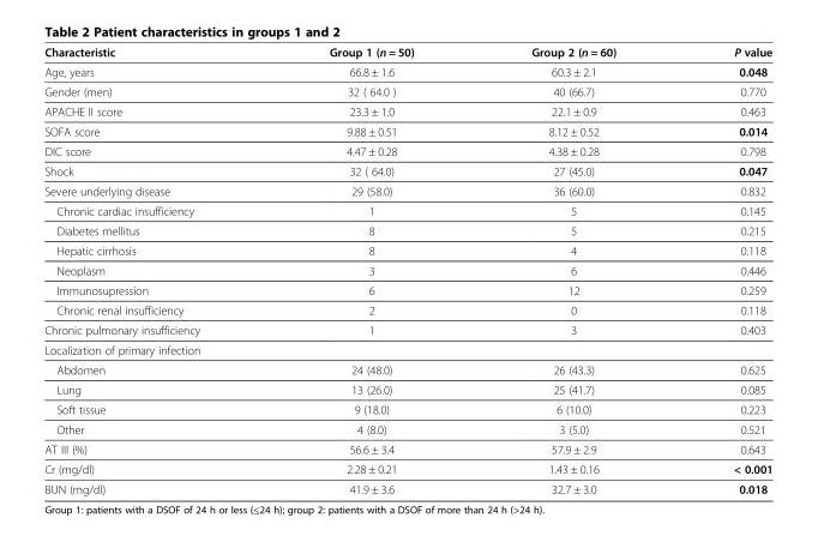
<table><thead><tr><td>Characteristic</td><td>Group 1 (n = 50)</td><td>Group 2 (n = 60)</td><td>P value</td></tr></thead><tbody><tr><td>Age, years</td><td>66.8 ± 1.6</td><td>60.3 ± 2.1</td><td>0.048</td></tr><tr><td>Gender (men)</td><td>32 ( 64.0 )</td><td>40 (66.7)</td><td>0.770</td></tr><tr><td>APACHE II score</td><td>23.3 ± 1.0</td><td>22.1 ± 0.9</td><td>0.463</td></tr><tr><td>SOFA score</td><td>9.88 ± 0.51</td><td>8.12 ± 0.52</td><td>0.014</td></tr><tr><td>DIC score</td><td>4.47 ± 0.28</td><td>4.38 ± 0.28</td><td>0.798</td></tr><tr><td>Shock</td><td>32 ( 64.0)</td><td>27 (45.0)</td><td>0.047</td></tr><tr><td>Severe underlying disease</td><td>29 (58.0)</td><td>36 (60.0)</td><td>0.832</td></tr><tr><td>Chronic cardiac insufficiency</td><td>1</td><td>5</td><td>0.145</td></tr><tr><td>Diabetes mellitus</td><td>8</td><td>5</td><td>0.215</td></tr><tr><td>Hepatic cirrhosis</td><td>8</td><td>4</td><td>0.118</td></tr><tr><td>Neoplasm</td><td>3</td><td>6</td><td>0.446</td></tr><tr><td>Immunosupression</td><td>6</td><td>12</td><td>0.259</td></tr><tr><td>Chronic renal insufficiency</td><td>2</td><td>0</td><td>0.118</td></tr><tr><td>Chronic pulmonary insufficiency</td><td>1</td><td>3</td><td>0.403</td></tr><tr><td colspan="4">Localization of primary infection</td></tr><tr><td>Abdomen</td><td>24 (48.0)</td><td>26 (43.3)</td><td>0.625</td></tr><tr><td>Lung</td><td>13 (26.0)</td><td>25 (41.7)</td><td>0.085</td></tr><tr><td>Soft tissue</td><td>9 (18.0)</td><td>6 (10.0)</td><td>0.223</td></tr><tr><td>Other</td><td>4 (8.0)</td><td>3 (5.0)</td><td>0.521</td></tr><tr><td>AT III (%)</td><td>56.6 ± 3.4</td><td>57.9 ± 2.9</td><td>0.643</td></tr><tr><td>Cr (mg/dl)</td><td>2.28 ± 0.21</td><td>1.43 ± 0.16</td><td>&lt; 0.001</td></tr><tr><td>BUN (mg/dl)</td><td>41.9 ± 3.6</td><td>32.7 ± 3.0</td><td>0.018</td></tr></tbody></table>